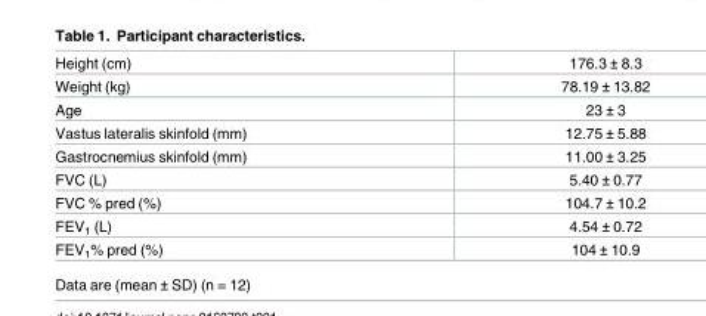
<table><tbody><tr><td>Height (cm)</td><td>176.3 ± 8.3</td></tr><tr><td>Weight (kg)</td><td>78.19 ± 13.82</td></tr><tr><td>Age</td><td>23 ± 3</td></tr><tr><td>Vastus lateralis skinfold (mm)</td><td>12.75 ± 5.88</td></tr><tr><td>Gastrocnemius skinfold (mm)</td><td>11.00 ± 3.25</td></tr><tr><td>FVC (L)</td><td>5.40 ± 0.77</td></tr><tr><td>FVC % pred (%)</td><td>104.7 ± 10.2</td></tr><tr><td>FEV<sub>1</sub> (L)</td><td>4.54 ± 0.72</td></tr><tr><td>FEV<sub>1</sub>% pred (%)</td><td>104 ± 10.9</td></tr></tbody></table>